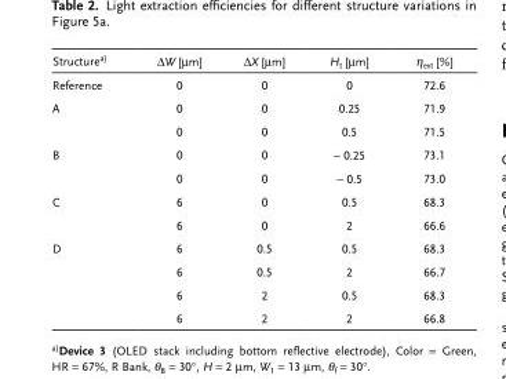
<table><thead><tr><td>Structurea)</td><td>ΔW [µm]</td><td>ΔX [µm]</td><td>H<sub>t</sub> [µm]</td><td>η<sub>ext</sub> [%]</td></tr></thead><tbody><tr><td>Reference</td><td>0</td><td>0</td><td>0</td><td>72.6</td></tr><tr><td rowspan="2">A</td><td>0</td><td>0</td><td>0.25</td><td>71.9</td></tr><tr><td>0</td><td>0</td><td>0.5</td><td>71.5</td></tr><tr><td rowspan="2">B</td><td>0</td><td>0</td><td>− 0.25</td><td>73.1</td></tr><tr><td>0</td><td>0</td><td>− 0.5</td><td>73.0</td></tr><tr><td rowspan="2">C</td><td>6</td><td>0</td><td>0.5</td><td>68.3</td></tr><tr><td>6</td><td>0</td><td>2</td><td>66.6</td></tr><tr><td rowspan="4">D</td><td>6</td><td>0.5</td><td>0.5</td><td>68.3</td></tr><tr><td>6</td><td>0.5</td><td>2</td><td>66.7</td></tr><tr><td>6</td><td>2</td><td>0.5</td><td>68.3</td></tr><tr><td>6</td><td>2</td><td>2</td><td>66.8</td></tr></tbody></table>